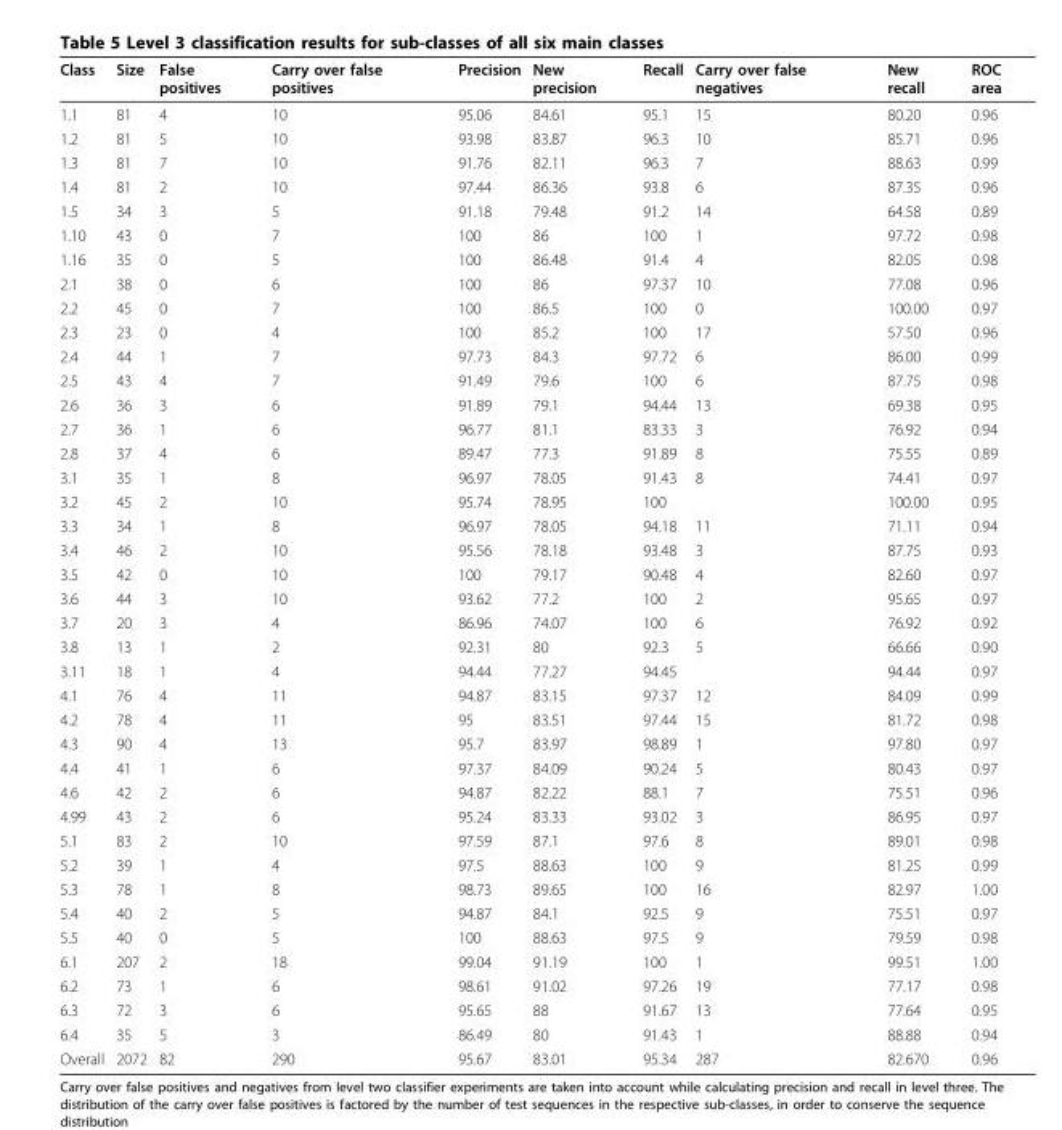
<table><thead><tr><td>Class</td><td>Size</td><td>False positives</td><td>Carry over false positives</td><td>Precision</td><td>New precision</td><td>Recall</td><td>Carry over false negatives</td><td>New recall</td><td>ROC area</td></tr></thead><tbody><tr><td>1.1</td><td>81</td><td>4</td><td>10</td><td>95.06</td><td>84.61</td><td>95.1</td><td>15</td><td>80.20</td><td>0.96</td></tr><tr><td>1.2</td><td>81</td><td>5</td><td>10</td><td>93.98</td><td>83.87</td><td>96.3</td><td>10</td><td>85.71</td><td>0.96</td></tr><tr><td>1.3</td><td>81</td><td>7</td><td>10</td><td>91.76</td><td>82.11</td><td>96.3</td><td>7</td><td>88.63</td><td>0.99</td></tr><tr><td>1.4</td><td>81</td><td>2</td><td>10</td><td>97.44</td><td>86.36</td><td>93.8</td><td>6</td><td>87.35</td><td>0.96</td></tr><tr><td>1.5</td><td>34</td><td>3</td><td>5</td><td>91.18</td><td>79.48</td><td>91.2</td><td>14</td><td>64.58</td><td>0.89</td></tr><tr><td>1.10</td><td>43</td><td>0</td><td>7</td><td>100</td><td>86</td><td>100</td><td>1</td><td>97.72</td><td>0.98</td></tr><tr><td>1.16</td><td>35</td><td>0</td><td>5</td><td>100</td><td>86.48</td><td>91.4</td><td>4</td><td>82.05</td><td>0.98</td></tr><tr><td>2.1</td><td>38</td><td>0</td><td>6</td><td>100</td><td>86</td><td>97.37</td><td>10</td><td>77.08</td><td>0.96</td></tr><tr><td>2.2</td><td>45</td><td>0</td><td>7</td><td>100</td><td>86.5</td><td>100</td><td>0</td><td>100.00</td><td>0.97</td></tr><tr><td>2.3</td><td>23</td><td>0</td><td>4</td><td>100</td><td>85.2</td><td>100</td><td>17</td><td>57.50</td><td>0.96</td></tr><tr><td>2.4</td><td>44</td><td>1</td><td>7</td><td>97.73</td><td>84.3</td><td>97.72</td><td>6</td><td>86.00</td><td>0.99</td></tr><tr><td>2.5</td><td>43</td><td>4</td><td>7</td><td>91.49</td><td>79.6</td><td>100</td><td>6</td><td>87.75</td><td>0.98</td></tr><tr><td>2.6</td><td>36</td><td>3</td><td>6</td><td>91.89</td><td>79.1</td><td>94.44</td><td>13</td><td>69.38</td><td>0.95</td></tr><tr><td>2.7</td><td>36</td><td>1</td><td>6</td><td>96.77</td><td>81.1</td><td>83.33</td><td>3</td><td>76.92</td><td>0.94</td></tr><tr><td>2.8</td><td>37</td><td>4</td><td>6</td><td>89.47</td><td>77.3</td><td>91.89</td><td>8</td><td>75.55</td><td>0.89</td></tr><tr><td>3.1</td><td>35</td><td>1</td><td>8</td><td>96.97</td><td>78.05</td><td>91.43</td><td>8</td><td>74.41</td><td>0.97</td></tr><tr><td>3.2</td><td>45</td><td>2</td><td>10</td><td>95.74</td><td>78.95</td><td>100</td><td></td><td>100.00</td><td>0.95</td></tr><tr><td>3.3</td><td>34</td><td>1</td><td>8</td><td>96.97</td><td>78.05</td><td>94.18</td><td>11</td><td>71.11</td><td>0.94</td></tr><tr><td>3.4</td><td>46</td><td>2</td><td>10</td><td>95.56</td><td>78.18</td><td>93.48</td><td>3</td><td>87.75</td><td>0.93</td></tr><tr><td>3.5</td><td>42</td><td>0</td><td>10</td><td>100</td><td>79.17</td><td>90.48</td><td>4</td><td>82.60</td><td>0.97</td></tr><tr><td>3.6</td><td>44</td><td>3</td><td>10</td><td>93.62</td><td>77.2</td><td>100</td><td>2</td><td>95.65</td><td>0.97</td></tr><tr><td>3.7</td><td>20</td><td>3</td><td>4</td><td>86.96</td><td>74.07</td><td>100</td><td>6</td><td>76.92</td><td>0.92</td></tr><tr><td>3.8</td><td>13</td><td>1</td><td>2</td><td>92.31</td><td>80</td><td>92.3</td><td>5</td><td>66.66</td><td>0.90</td></tr><tr><td>3.11</td><td>18</td><td>1</td><td>4</td><td>94.44</td><td>77.27</td><td>94.45</td><td></td><td>94.44</td><td>0.97</td></tr><tr><td>4.1</td><td>76</td><td>4</td><td>11</td><td>94.87</td><td>83.15</td><td>97.37</td><td>12</td><td>84.09</td><td>0.99</td></tr><tr><td>4.2</td><td>78</td><td>4</td><td>11</td><td>95</td><td>83.51</td><td>97.44</td><td>15</td><td>81.72</td><td>0.98</td></tr><tr><td>4.3</td><td>90</td><td>4</td><td>13</td><td>95.7</td><td>83.97</td><td>98.89</td><td>1</td><td>97.80</td><td>0.97</td></tr><tr><td>4.4</td><td>41</td><td>1</td><td>6</td><td>97.37</td><td>84.09</td><td>90.24</td><td>5</td><td>80.43</td><td>0.97</td></tr><tr><td>4.6</td><td>42</td><td>2</td><td>6</td><td>94.87</td><td>82.22</td><td>88.1</td><td>7</td><td>75.51</td><td>0.96</td></tr><tr><td>4.99</td><td>43</td><td>2</td><td>6</td><td>95.24</td><td>83.33</td><td>93.02</td><td>3</td><td>86.95</td><td>0.97</td></tr><tr><td>5.1</td><td>83</td><td>2</td><td>10</td><td>97.59</td><td>87.1</td><td>97.6</td><td>8</td><td>89.01</td><td>0.98</td></tr><tr><td>5.2</td><td>39</td><td>1</td><td>4</td><td>97.5</td><td>88.63</td><td>100</td><td>9</td><td>81.25</td><td>0.99</td></tr><tr><td>5.3</td><td>78</td><td>1</td><td>8</td><td>98.73</td><td>89.65</td><td>100</td><td>16</td><td>82.97</td><td>1.00</td></tr><tr><td>5.4</td><td>40</td><td>2</td><td>5</td><td>94.87</td><td>84.1</td><td>92.5</td><td>9</td><td>75.51</td><td>0.97</td></tr><tr><td>5.5</td><td>40</td><td>0</td><td>5</td><td>100</td><td>88.63</td><td>97.5</td><td>9</td><td>79.59</td><td>0.98</td></tr><tr><td>6.1</td><td>207</td><td>2</td><td>18</td><td>99.04</td><td>91.19</td><td>100</td><td>1</td><td>99.51</td><td>1.00</td></tr><tr><td>6.2</td><td>73</td><td>1</td><td>6</td><td>98.61</td><td>91.02</td><td>97.26</td><td>19</td><td>77.17</td><td>0.98</td></tr><tr><td>6.3</td><td>72</td><td>3</td><td>6</td><td>95.65</td><td>88</td><td>91.67</td><td>13</td><td>77.64</td><td>0.95</td></tr><tr><td>6.4</td><td>35</td><td>5</td><td>3</td><td>86.49</td><td>80</td><td>91.43</td><td>1</td><td>88.88</td><td>0.94</td></tr><tr><td>Overall</td><td>2072</td><td>82</td><td>290</td><td>95.67</td><td>83.01</td><td>95.34</td><td>287</td><td>82.670</td><td>0.96</td></tr></tbody></table>